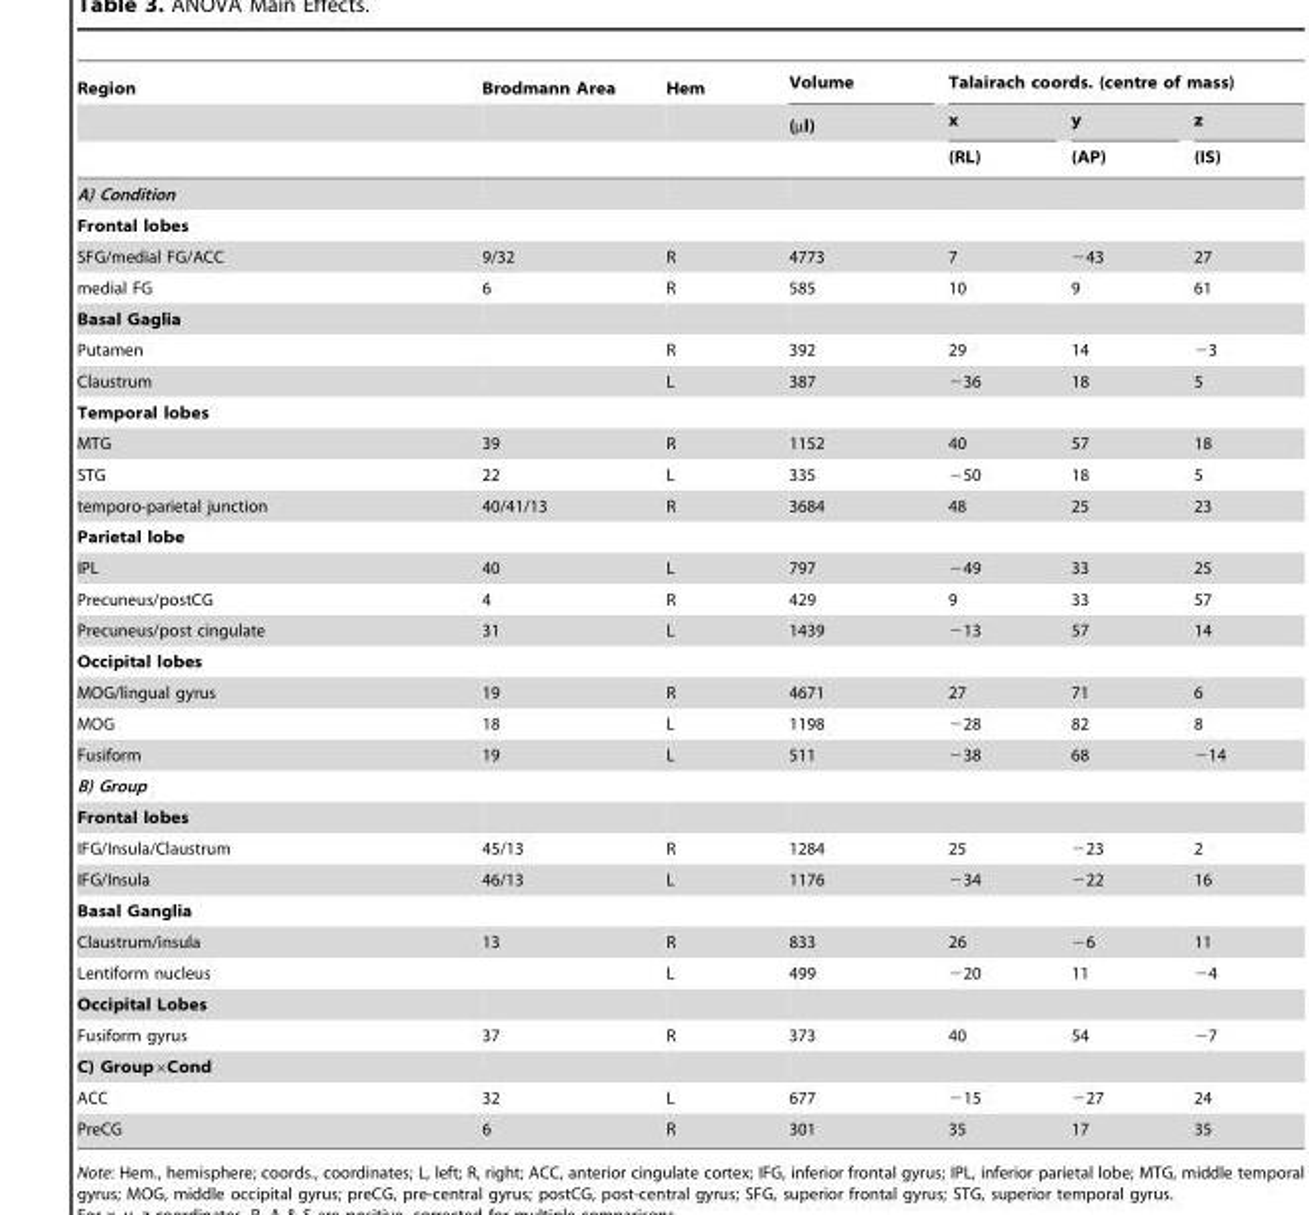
<table><thead><tr><td rowspan="3">Region</td><td rowspan="3">Brodmann Area</td><td rowspan="3">Hem</td><td rowspan="3">Volume (µl)</td><td colspan="3">Talairach coords. (centre of mass)</td></tr><tr><td rowspan="2">x (RL)</td><td rowspan="2">y (AP)</td><td rowspan="2">z (IS)</td></tr><tr></tr></thead><tbody><tr><td colspan="7">A) Condition</td></tr><tr><td colspan="7">Frontal lobes</td></tr><tr><td>SFG/medial FG/ACC</td><td>9/32</td><td>R</td><td>4773</td><td>7</td><td>−43</td><td>27</td></tr><tr><td>medial FG</td><td>6</td><td>R</td><td>585</td><td>10</td><td>9</td><td>61</td></tr><tr><td colspan="7">Basal Gaglia</td></tr><tr><td>Putamen</td><td></td><td>R</td><td>392</td><td>29</td><td>14</td><td>−3</td></tr><tr><td>Claustrum</td><td></td><td>L</td><td>387</td><td>−36</td><td>18</td><td>5</td></tr><tr><td colspan="7">Temporal lobes</td></tr><tr><td>MTG</td><td>39</td><td>R</td><td>1152</td><td>40</td><td>57</td><td>18</td></tr><tr><td>STG</td><td>22</td><td>L</td><td>335</td><td>−50</td><td>18</td><td>5</td></tr><tr><td>temporo-parietal junction</td><td>40/41/13</td><td>R</td><td>3684</td><td>48</td><td>25</td><td>23</td></tr><tr><td colspan="7">Parietal lobe</td></tr><tr><td>IPL</td><td>40</td><td>L</td><td>797</td><td>−49</td><td>33</td><td>25</td></tr><tr><td>Precuneus/postCG</td><td>4</td><td>R</td><td>429</td><td>9</td><td>33</td><td>57</td></tr><tr><td>Precuneus/post cingulate</td><td>31</td><td>L</td><td>1439</td><td>−13</td><td>57</td><td>14</td></tr><tr><td colspan="7">Occipital lobes</td></tr><tr><td>MOG/lingual gyrus</td><td>19</td><td>R</td><td>4671</td><td>27</td><td>71</td><td>6</td></tr><tr><td>MOG</td><td>18</td><td>L</td><td>1198</td><td>−28</td><td>82</td><td>8</td></tr><tr><td>Fusiform</td><td>19</td><td>L</td><td>511</td><td>−38</td><td>68</td><td>−14</td></tr><tr><td colspan="7">B) Group</td></tr><tr><td colspan="7">Frontal lobes</td></tr><tr><td>IFG/Insula/Claustrum</td><td>45/13</td><td>R</td><td>1284</td><td>25</td><td>−23</td><td>2</td></tr><tr><td>IFG/Insula</td><td>46/13</td><td>L</td><td>1176</td><td>−34</td><td>−22</td><td>16</td></tr><tr><td colspan="7">Basal Ganglia</td></tr><tr><td>Claustrum/insula</td><td>13</td><td>R</td><td>833</td><td>26</td><td>−6</td><td>11</td></tr><tr><td>Lentiform nucleus</td><td></td><td>L</td><td>499</td><td>−20</td><td>11</td><td>−4</td></tr><tr><td colspan="7">Occipital Lobes</td></tr><tr><td>Fusiform gyrus</td><td>37</td><td>R</td><td>373</td><td>40</td><td>54</td><td>−7</td></tr><tr><td colspan="7">C) Group×Cond</td></tr><tr><td>ACC</td><td>32</td><td>L</td><td>677</td><td>−15</td><td>−27</td><td>24</td></tr><tr><td>PreCG</td><td>6</td><td>R</td><td>301</td><td>35</td><td>17</td><td>35</td></tr></tbody></table>